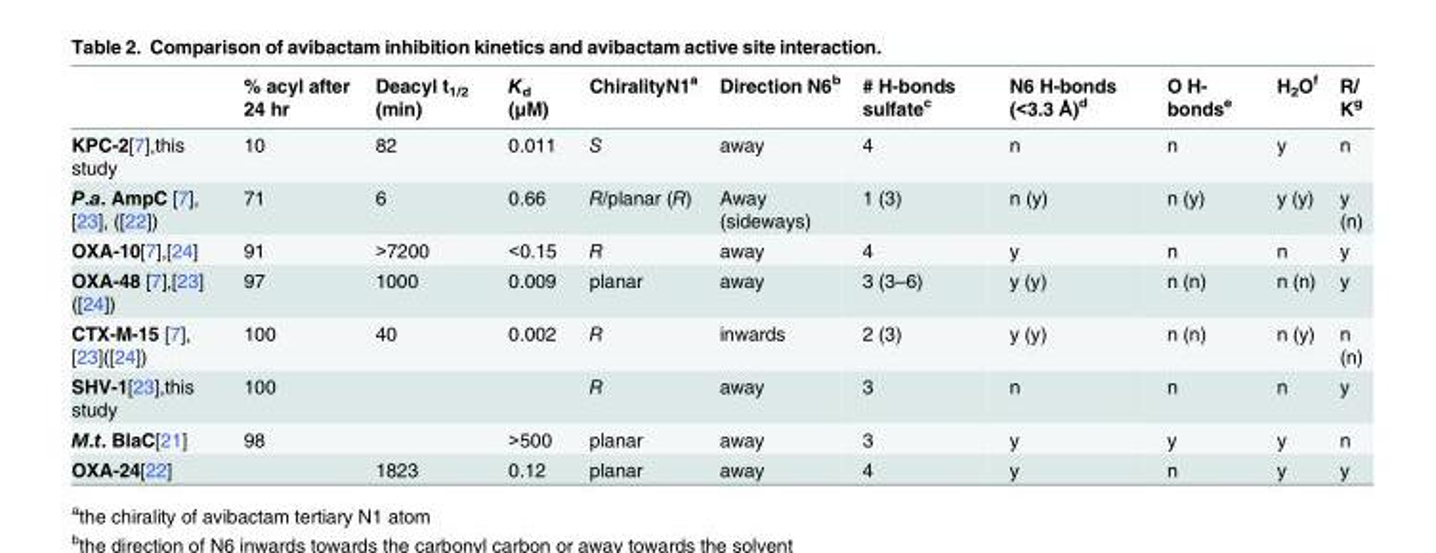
<table><thead><tr><td></td><td>% acyl after 24 hr</td><td>Deacyl t<sub>1/2</sub> (min)</td><td>K<sub>d</sub> (μM)</td><td>ChiralityN1<sup>a</sup></td><td>Direction N6<sup>b</sup></td><td># H-bonds sulfate<sup>c</sup></td><td>N6 H-bonds (&lt;3.3 Å)<sup>d</sup></td><td>O H- bonds<sup>e</sup></td><td>H<sub>2</sub>O<sup>f</sup></td><td>R/ K<sup>g</sup></td></tr></thead><tbody><tr><td>KPC-2[7],this study</td><td>10</td><td>82</td><td>0.011</td><td>S</td><td>away</td><td>4</td><td>n</td><td>n</td><td>y</td><td>n</td></tr><tr><td>P.a. AmpC [7], [23], ([22])</td><td>71</td><td>6</td><td>0.66</td><td>R/planar (R)</td><td>Away (sideways)</td><td>1 (3)</td><td>n (y)</td><td>n (y)</td><td>y (y)</td><td>y (n)</td></tr><tr><td>OXA-10[7],[24]</td><td>91</td><td>&gt;7200</td><td>&lt;0.15</td><td>R</td><td>away</td><td>4</td><td>y</td><td>n</td><td>n</td><td>y</td></tr><tr><td>OXA-48 [7],[23] ([24])</td><td>97</td><td>1000</td><td>0.009</td><td>planar</td><td>away</td><td>3 (3–6)</td><td>y (y)</td><td>n (n)</td><td>n (n)</td><td>y</td></tr><tr><td>CTX-M-15 [7], [23]([24])</td><td>100</td><td>40</td><td>0.002</td><td>R</td><td>inwards</td><td>2 (3)</td><td>y (y)</td><td>n (n)</td><td>n (y)</td><td>n (n)</td></tr><tr><td>SHV-1[23],this study</td><td>100</td><td></td><td></td><td>R</td><td>away</td><td>3</td><td>n</td><td>n</td><td>n</td><td>y</td></tr><tr><td>M.t. BlaC[21]</td><td>98</td><td></td><td>&gt;500</td><td>planar</td><td>away</td><td>3</td><td>y</td><td>y</td><td>y</td><td>n</td></tr><tr><td>OXA-24[22]</td><td></td><td>1823</td><td>0.12</td><td>planar</td><td>away</td><td>4</td><td>y</td><td>n</td><td>y</td><td>y</td></tr></tbody></table>